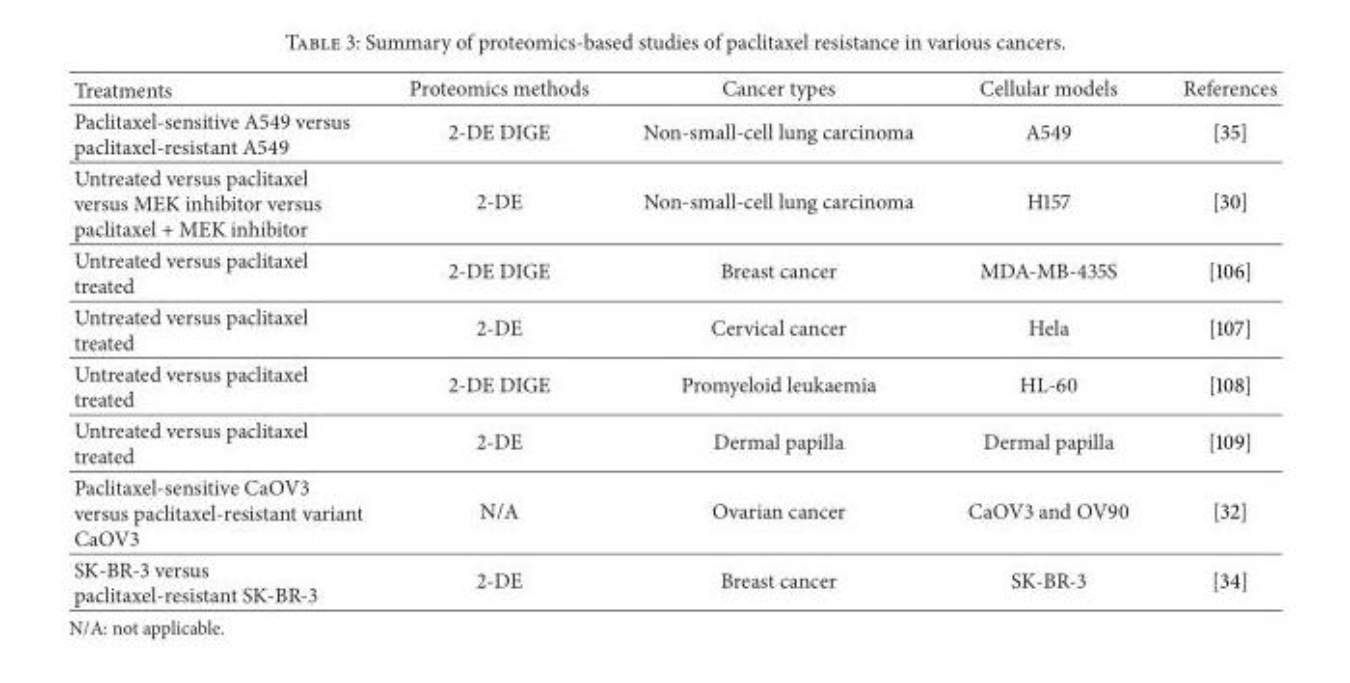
<table><thead><tr><td>Treatments</td><td>Proteomics methods</td><td>Cancer types</td><td>Cellular models</td><td>References</td></tr></thead><tbody><tr><td>Paclitaxel-sensitive A549 versus paclitaxel-resistant A549</td><td>2-DE DIGE</td><td>Non-small-cell lung carcinoma</td><td>A549</td><td>[35]</td></tr><tr><td>Untreated versus paclitaxel versus MEK inhibitor versus paclitaxel + MEK inhibitor</td><td>2-DE</td><td>Non-small-cell lung carcinoma</td><td>H157</td><td>[30]</td></tr><tr><td>Untreated versus paclitaxel treated</td><td>2-DE DIGE</td><td>Breast cancer</td><td>MDA-MB-435S</td><td>[106]</td></tr><tr><td>Untreated versus paclitaxel treated</td><td>2-DE</td><td>Cervical cancer</td><td>Hela</td><td>[107]</td></tr><tr><td>Untreated versus paclitaxel treated</td><td>2-DE DIGE</td><td>Promyeloid leukaemia</td><td>HL-60</td><td>[108]</td></tr><tr><td>Untreated versus paclitaxel treated</td><td>2-DE</td><td>Dermal papilla</td><td>Dermal papilla</td><td>[109]</td></tr><tr><td>Paclitaxel-sensitive CaOV3 versus paclitaxel-resistant variant CaOV3</td><td>N/A</td><td>Ovarian cancer</td><td>CaOV3 and OV90</td><td>[32]</td></tr><tr><td>SK-BR-3 versus paclitaxel-resistant SK-BR-3</td><td>2-DE</td><td>Breast cancer</td><td>SK-BR-3</td><td>[34]</td></tr></tbody></table>